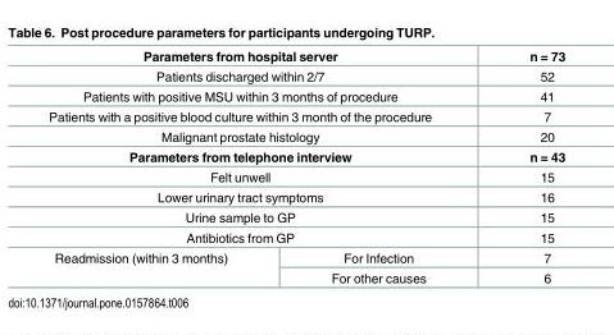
<table><tbody><tr><td colspan="2">Parameters from hospital server</td><td>n = 73</td></tr><tr><td colspan="2">Patients discharged within 2/7</td><td>52</td></tr><tr><td colspan="2">Patients with positive MSU within 3 months of procedure</td><td>41</td></tr><tr><td colspan="2">Patients with a positive blood culture within 3 month of the procedure</td><td>7</td></tr><tr><td colspan="2">Malignant prostate histology</td><td>20</td></tr><tr><td colspan="2">Parameters from telephone interview</td><td>n = 43</td></tr><tr><td colspan="2">Felt unwell</td><td>15</td></tr><tr><td colspan="2">Lower urinary tract symptoms</td><td>16</td></tr><tr><td colspan="2">Urine sample to GP</td><td>15</td></tr><tr><td colspan="2">Antibiotics from GP</td><td>15</td></tr><tr><td rowspan="2">Readmission (within 3 months)</td><td>For Infection</td><td>7</td></tr><tr><td>For other causes</td><td>6</td></tr></tbody></table>